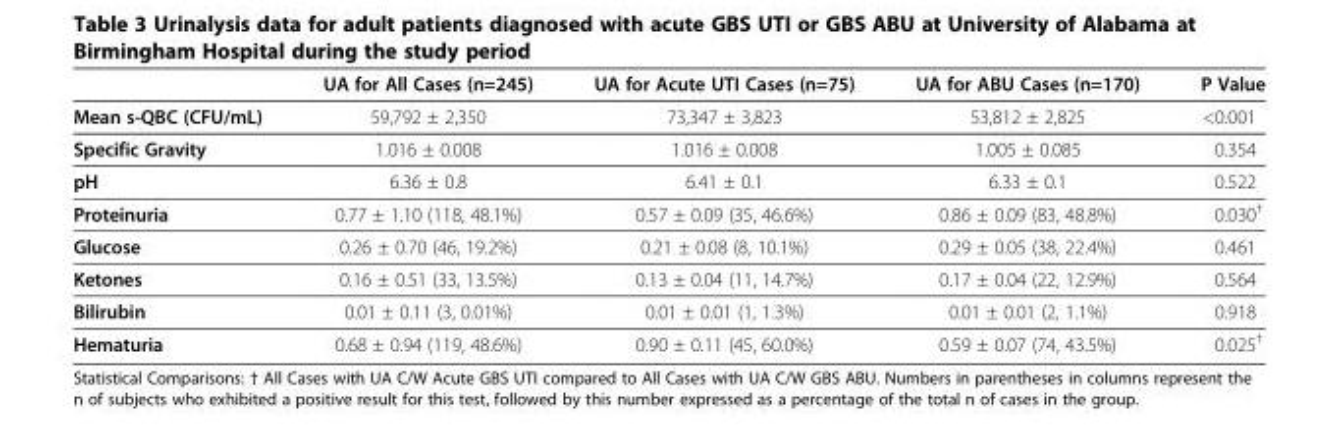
<table><thead><tr><td></td><td>UA for All Cases (n=245)</td><td>UA for Acute UTI Cases (n=75)</td><td>UA for ABU Cases (n=170)</td><td>P Value</td></tr></thead><tbody><tr><td>Mean s-QBC (CFU/mL)</td><td>59,792 ± 2,350</td><td>73,347 ± 3,823</td><td>53,812 ± 2,825</td><td>&lt;0.001</td></tr><tr><td>Specific Gravity</td><td>1.016 ± 0.008</td><td>1.016 ± 0.008</td><td>1.005 ± 0.085</td><td>0.354</td></tr><tr><td>pH</td><td>6.36 ± 0.8</td><td>6.41 ± 0.1</td><td>6.33 ± 0.1</td><td>0.522</td></tr><tr><td>Proteinuria</td><td>0.77 ± 1.10 (118, 48.1%)</td><td>0.57 ± 0.09 (35, 46.6%)</td><td>0.86 ± 0.09 (83, 48.8%)</td><td>0.030<sup>†</sup></td></tr><tr><td>Glucose</td><td>0.26 ± 0.70 (46, 19.2%)</td><td>0.21 ± 0.08 (8, 10.1%)</td><td>0.29 ± 0.05 (38, 22.4%)</td><td>0.461</td></tr><tr><td>Ketones</td><td>0.16 ± 0.51 (33, 13.5%)</td><td>0.13 ± 0.04 (11, 14.7%)</td><td>0.17 ± 0.04 (22, 12.9%)</td><td>0.564</td></tr><tr><td>Bilirubin</td><td>0.01 ± 0.11 (3, 0.01%)</td><td>0.01 ± 0.01 (1, 1.3%)</td><td>0.01 ± 0.01 (2, 1.1%)</td><td>0.918</td></tr><tr><td>Hematuria</td><td>0.68 ± 0.94 (119, 48.6%)</td><td>0.90 ± 0.11 (45, 60.0%)</td><td>0.59 ± 0.07 (74, 43.5%)</td><td>0.025<sup>†</sup></td></tr></tbody></table>